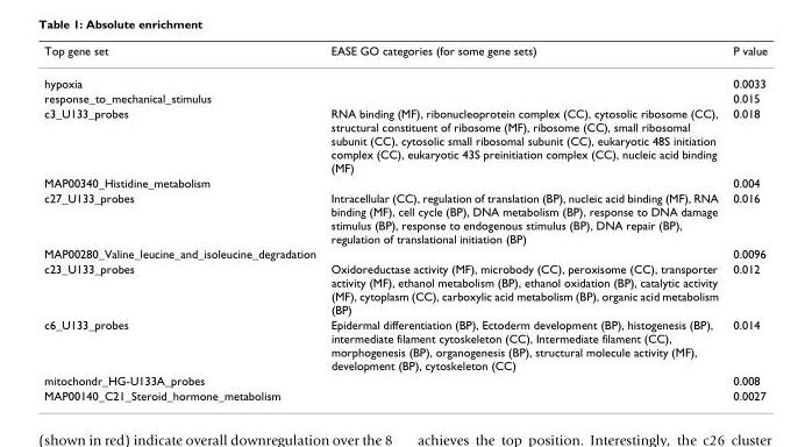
<table><thead><tr><td>Top gene set</td><td>EASE GO categories (for some gene sets)</td><td>P value</td></tr></thead><tbody><tr><td>hypoxia</td><td></td><td>0.0033</td></tr><tr><td>response_to_mechanical_stimulus</td><td></td><td>0.015</td></tr><tr><td>c3_U133_probes</td><td>RNA binding (MF), ribonucleoprotein complex (CC), cytosolic ribosome (CC), structural constituent of ribosome (MF), ribosome (CC), small ribosomal subunit (CC), cytosolic small ribosomal subunit (CC), eukaryotic 48S initiation complex (CC), eukaryotic 43S preinitiation complex (CC), nucleic acid binding (MF)</td><td>0.018</td></tr><tr><td>MAP00340_Histidine_metabolism</td><td></td><td>0.004</td></tr><tr><td>c27_U133_probes</td><td>Intracellular (CC), regulation of translation (BP), nucleic acid binding (MF), RNA binding (MF), cell cycle (BP), DNA metabolism (BP), response to DNA damage stimulus (BP), response to endogenous stimulus (BP), DNA repair (BP), regulation of translational initiation (BP)</td><td>0.016</td></tr><tr><td>MAP00280_Valine_leucine_and_isoleucine_degradation</td><td></td><td>0.0096</td></tr><tr><td>c23_U133_probes</td><td>Oxidoreductase activity (MF), microbody (CC), peroxisome (CC), transporter activity (MF), ethanol metabolism (BP), ethanol oxidation (BP), catalytic activity (MF), cytoplasm (CC), carboxylic acid metabolism (BP), organic acid metabolism (BP)</td><td>0.012</td></tr><tr><td>c6_U133_probes</td><td>Epidermal differentiation (BP), Ectoderm development (BP), histogenesis (BP), intermediate filament cytoskeleton (CC), Intermediate filament (CC), morphogenesis (BP), organogenesis (BP), structural molecule activity (MF), development (BP), cytoskeleton (CC)</td><td>0.014</td></tr><tr><td>mitochondr_HG-U133A_probes</td><td></td><td>0.008</td></tr><tr><td>MAP00140_C21_Steroid_hormone_metabolism</td><td></td><td>0.0027</td></tr></tbody></table>